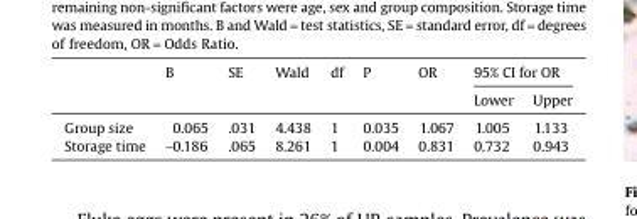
<table><thead><tr><td rowspan="2"></td><td rowspan="2">B</td><td rowspan="2">SE</td><td rowspan="2">Wald</td><td rowspan="2">df</td><td rowspan="2">P</td><td rowspan="2">OR</td><td colspan="2">95% CI for OR</td></tr><tr><td>Lower</td><td>Upper</td></tr></thead><tbody><tr><td>Group size</td><td>0.065</td><td>.031</td><td>4.438</td><td>1</td><td>0.035</td><td>1.067</td><td>1.005</td><td>1.133</td></tr><tr><td>Storage time</td><td>−0.186</td><td>.065</td><td>8.261</td><td>1</td><td>0.004</td><td>0.831</td><td>0.732</td><td>0.943</td></tr></tbody></table>